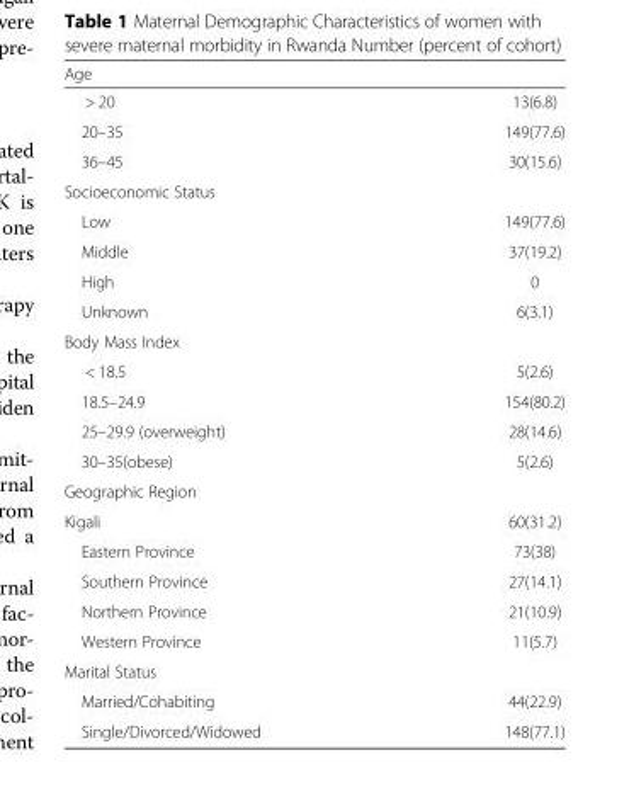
<table><thead><tr><td>Age</td><td></td></tr></thead><tbody><tr><td>&gt; 20</td><td>13(6.8)</td></tr><tr><td>20–35</td><td>149(77.6)</td></tr><tr><td>36–45</td><td>30(15.6)</td></tr><tr><td colspan="2">Socioeconomic Status</td></tr><tr><td>Low</td><td>149(77.6)</td></tr><tr><td>Middle</td><td>37(19.2)</td></tr><tr><td>High</td><td>0</td></tr><tr><td>Unknown</td><td>6(3.1)</td></tr><tr><td colspan="2">Body Mass Index</td></tr><tr><td>&lt; 18.5</td><td>5(2.6)</td></tr><tr><td>18.5–24.9</td><td>154(80.2)</td></tr><tr><td>25–29.9 (overweight)</td><td>28(14.6)</td></tr><tr><td>30–35(obese)</td><td>5(2.6)</td></tr><tr><td colspan="2">Geographic Region</td></tr><tr><td>Kigali</td><td>60(31.2)</td></tr><tr><td>Eastern Province</td><td>73(38)</td></tr><tr><td>Southern Province</td><td>27(14.1)</td></tr><tr><td>Northern Province</td><td>21(10.9)</td></tr><tr><td>Western Province</td><td>11(5.7)</td></tr><tr><td colspan="2">Marital Status</td></tr><tr><td>Married/Cohabiting</td><td>44(22.9)</td></tr><tr><td>Single/Divorced/Widowed</td><td>148(77.1)</td></tr></tbody></table>